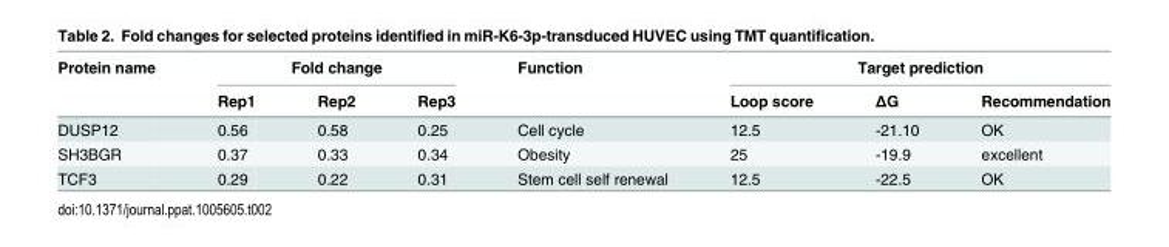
<table><thead><tr><td rowspan="2">Protein name</td><td colspan="3">Fold change</td><td rowspan="2">Function</td><td colspan="3">Target prediction</td></tr><tr><td>Rep1</td><td>Rep2</td><td>Rep3</td><td>Loop score</td><td>ΔG</td><td>Recommendation</td></tr></thead><tbody><tr><td>DUSP12</td><td>0.56</td><td>0.58</td><td>0.25</td><td>Cell cycle</td><td>12.5</td><td>-21.10</td><td>OK</td></tr><tr><td>SH3BGR</td><td>0.37</td><td>0.33</td><td>0.34</td><td>Obesity</td><td>25</td><td>-19.9</td><td>excellent</td></tr><tr><td>TCF3</td><td>0.29</td><td>0.22</td><td>0.31</td><td>Stem cell self renewal</td><td>12.5</td><td>-22.5</td><td>OK</td></tr></tbody></table>